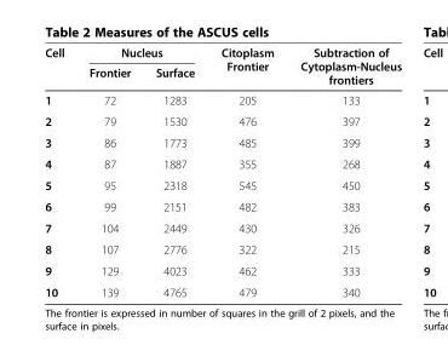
<table><thead><tr><td rowspan="2">Cell</td><td colspan="2">Nucleus</td><td rowspan="2">Citoplasm Frontier</td><td rowspan="2">Subtraction of Cytoplasm-Nucleus frontiers</td></tr><tr><td>Frontier</td><td>Surface</td></tr></thead><tbody><tr><td>1</td><td>72</td><td>1283</td><td>205</td><td>133</td></tr><tr><td>2</td><td>79</td><td>1530</td><td>476</td><td>397</td></tr><tr><td>3</td><td>86</td><td>1773</td><td>485</td><td>399</td></tr><tr><td>4</td><td>87</td><td>1887</td><td>355</td><td>268</td></tr><tr><td>5</td><td>95</td><td>2318</td><td>545</td><td>450</td></tr><tr><td>6</td><td>99</td><td>2151</td><td>482</td><td>383</td></tr><tr><td>7</td><td>104</td><td>2449</td><td>430</td><td>326</td></tr><tr><td>8</td><td>107</td><td>2776</td><td>322</td><td>215</td></tr><tr><td>9</td><td>129</td><td>4023</td><td>462</td><td>333</td></tr><tr><td>10</td><td>139</td><td>4765</td><td>479</td><td>340</td></tr></tbody></table>